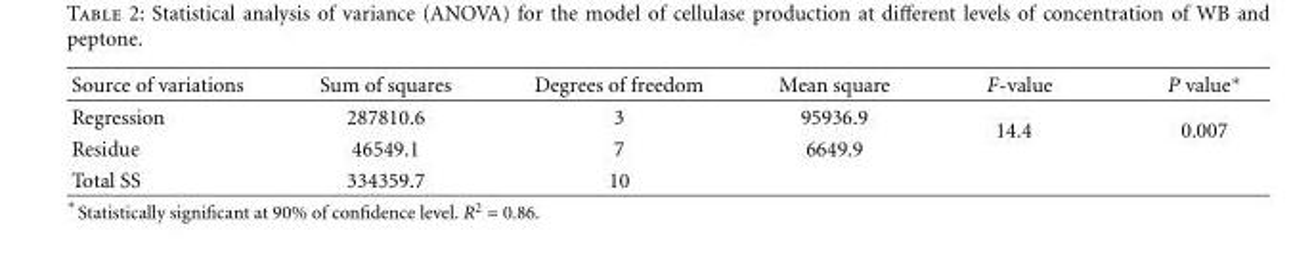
<table><thead><tr><td>Source of variations</td><td>Sum of squares</td><td>Degrees of freedom</td><td>Mean square</td><td>F-value</td><td>P value∗</td></tr></thead><tbody><tr><td>Regression</td><td>287810.6</td><td>3</td><td>95936.9</td><td rowspan="2">14.4</td><td rowspan="2">0.007</td></tr><tr><td>Residue</td><td>46549.1</td><td>7</td><td>6649.9</td></tr><tr><td>Total SS</td><td>334359.7</td><td>10</td><td></td><td></td><td></td></tr></tbody></table>